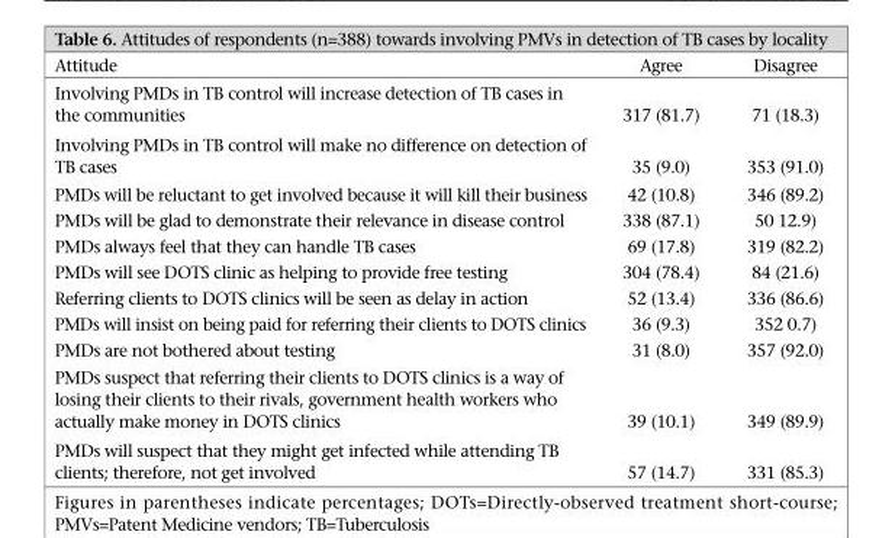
<table><thead><tr><td>Attitude</td><td>Agree</td><td>Disagree</td></tr></thead><tbody><tr><td>Involving PMDs in TB control will increase detection of TB cases in the communities</td><td>317 (81.7)</td><td>71 (18.3)</td></tr><tr><td>Involving PMDs in TB control will make no difference on detection of TB cases</td><td>35 (9.0)</td><td>353 (91.0)</td></tr><tr><td>PMDs will be reluctant to get involved because it will kill their business</td><td>42 (10.8)</td><td>346 (89.2)</td></tr><tr><td>PMDs will be glad to demonstrate their relevance in disease control</td><td>338 (87.1)</td><td>50 12.9)</td></tr><tr><td>PMDs always feel that they can handle TB cases</td><td>69 (17.8)</td><td>319 (82.2)</td></tr><tr><td>PMDs will see DOTS clinic as helping to provide free testing</td><td>304 (78.4)</td><td>84 (21.6)</td></tr><tr><td>Referring clients to DOTS clinics will be seen as delay in action</td><td>52 (13.4)</td><td>336 (86.6)</td></tr><tr><td>PMDs will insist on being paid for referring their clients to DOTS clinics</td><td>36 (9.3)</td><td>352 0.7)</td></tr><tr><td>PMDs are not bothered about testing</td><td>31 (8.0)</td><td>357 (92.0)</td></tr><tr><td>PMDs suspect that referring their clients to DOTS clinics is a way of losing their clients to their rivals, government health workers who actually make money in DOTS clinics</td><td>39 (10.1)</td><td>349 (89.9)</td></tr><tr><td>PMDs will suspect that they might get infected while attending TB clients; therefore, not get involved</td><td>57 (14.7)</td><td>331 (85.3)</td></tr></tbody></table>